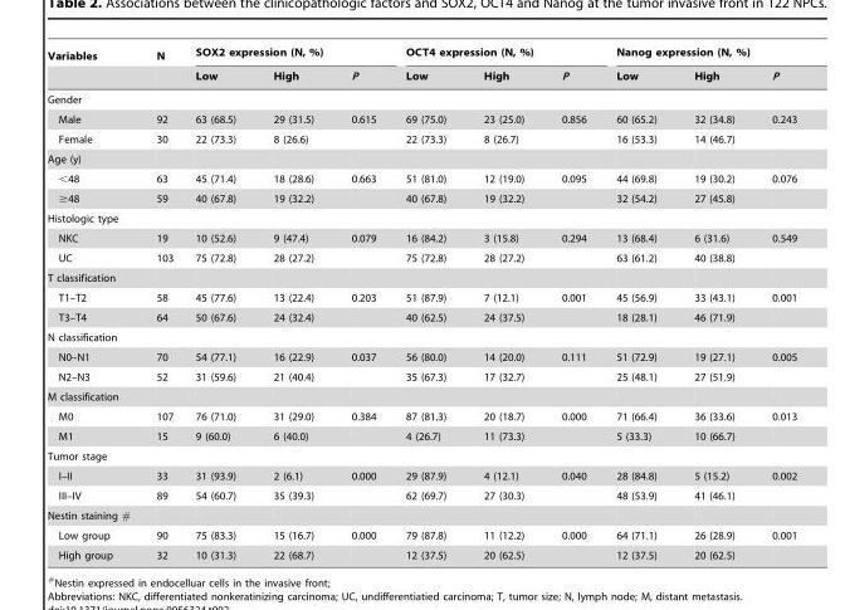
<table><thead><tr><td rowspan="2">Variables</td><td rowspan="2">N</td><td colspan="3">SOX2 expression (N, %)</td><td colspan="3">OCT4 expression (N, %)</td><td colspan="3">Nanog expression (N, %)</td></tr><tr><td>Low</td><td>High</td><td>P</td><td>Low</td><td>High</td><td>P</td><td>Low</td><td>High</td><td>P</td></tr></thead><tbody><tr><td colspan="11">Gender</td></tr><tr><td>Male</td><td>92</td><td>63 (68.5)</td><td>29 (31.5)</td><td>0.615</td><td>69 (75.0)</td><td>23 (25.0)</td><td>0.856</td><td>60 (65.2)</td><td>32 (34.8)</td><td>0.243</td></tr><tr><td>Female</td><td>30</td><td>22 (73.3)</td><td>8 (26.6)</td><td></td><td>22 (73.3)</td><td>8 (26.7)</td><td></td><td>16 (53.3)</td><td>14 (46.7)</td><td></td></tr><tr><td colspan="11">Age (y)</td></tr><tr><td>&lt;48</td><td>63</td><td>45 (71.4)</td><td>18 (28.6)</td><td>0.663</td><td>51 (81.0)</td><td>12 (19.0)</td><td>0.095</td><td>44 (69.8)</td><td>19 (30.2)</td><td>0.076</td></tr><tr><td>≥48</td><td>59</td><td>40 (67.8)</td><td>19 (32.2)</td><td></td><td>40 (67.8)</td><td>19 (32.2)</td><td></td><td>32 (54.2)</td><td>27 (45.8)</td><td></td></tr><tr><td colspan="11">Histologic type</td></tr><tr><td>NKC</td><td>19</td><td>10 (52.6)</td><td>9 (47.4)</td><td>0.079</td><td>16 (84.2)</td><td>3 (15.8)</td><td>0.294</td><td>13 (68.4)</td><td>6 (31.6)</td><td>0.549</td></tr><tr><td>UC</td><td>103</td><td>75 (72.8)</td><td>28 (27.2)</td><td></td><td>75 (72.8)</td><td>28 (27.2)</td><td></td><td>63 (61.2)</td><td>40 (38.8)</td><td></td></tr><tr><td colspan="11">T classification</td></tr><tr><td>T1–T2</td><td>58</td><td>45 (77.6)</td><td>13 (22.4)</td><td>0.203</td><td>51 (87.9)</td><td>7 (12.1)</td><td>0.001</td><td>45 (56.9)</td><td>33 (43.1)</td><td>0.001</td></tr><tr><td>T3–T4</td><td>64</td><td>50 (67.6)</td><td>24 (32.4)</td><td></td><td>40 (62.5)</td><td>24 (37.5)</td><td></td><td>18 (28.1)</td><td>46 (71.9)</td><td></td></tr><tr><td colspan="11">N classification</td></tr><tr><td>N0–N1</td><td>70</td><td>54 (77.1)</td><td>16 (22.9)</td><td>0.037</td><td>56 (80.0)</td><td>14 (20.0)</td><td>0.111</td><td>51 (72.9)</td><td>19 (27.1)</td><td>0.005</td></tr><tr><td>N2–N3</td><td>52</td><td>31 (59.6)</td><td>21 (40.4)</td><td></td><td>35 (67.3)</td><td>17 (32.7)</td><td></td><td>25 (48.1)</td><td>27 (51.9)</td><td></td></tr><tr><td colspan="11">M classification</td></tr><tr><td>M0</td><td>107</td><td>76 (71.0)</td><td>31 (29.0)</td><td>0.384</td><td>87 (81.3)</td><td>20 (18.7)</td><td>0.000</td><td>71 (66.4)</td><td>36 (33.6)</td><td>0.013</td></tr><tr><td>M1</td><td>15</td><td>9 (60.0)</td><td>6 (40.0)</td><td></td><td>4 (26.7)</td><td>11 (73.3)</td><td></td><td>5 (33.3)</td><td>10 (66.7)</td><td></td></tr><tr><td colspan="11">Tumor stage</td></tr><tr><td>I–II</td><td>33</td><td>31 (93.9)</td><td>2 (6.1)</td><td>0.000</td><td>29 (87.9)</td><td>4 (12.1)</td><td>0.040</td><td>28 (84.8)</td><td>5 (15.2)</td><td>0.002</td></tr><tr><td>III–IV</td><td>89</td><td>54 (60.7)</td><td>35 (39.3)</td><td></td><td>62 (69.7)</td><td>27 (30.3)</td><td></td><td>48 (53.9)</td><td>41 (46.1)</td><td></td></tr><tr><td colspan="11">Nestin staining #</td></tr><tr><td>Low group</td><td>90</td><td>75 (83.3)</td><td>15 (16.7)</td><td>0.000</td><td>79 (87.8)</td><td>11 (12.2)</td><td>0.000</td><td>64 (71.1)</td><td>26 (28.9)</td><td>0.001</td></tr><tr><td>High group</td><td>32</td><td>10 (31.3)</td><td>22 (68.7)</td><td></td><td>12 (37.5)</td><td>20 (62.5)</td><td></td><td>12 (37.5)</td><td>20 (62.5)</td><td></td></tr></tbody></table>